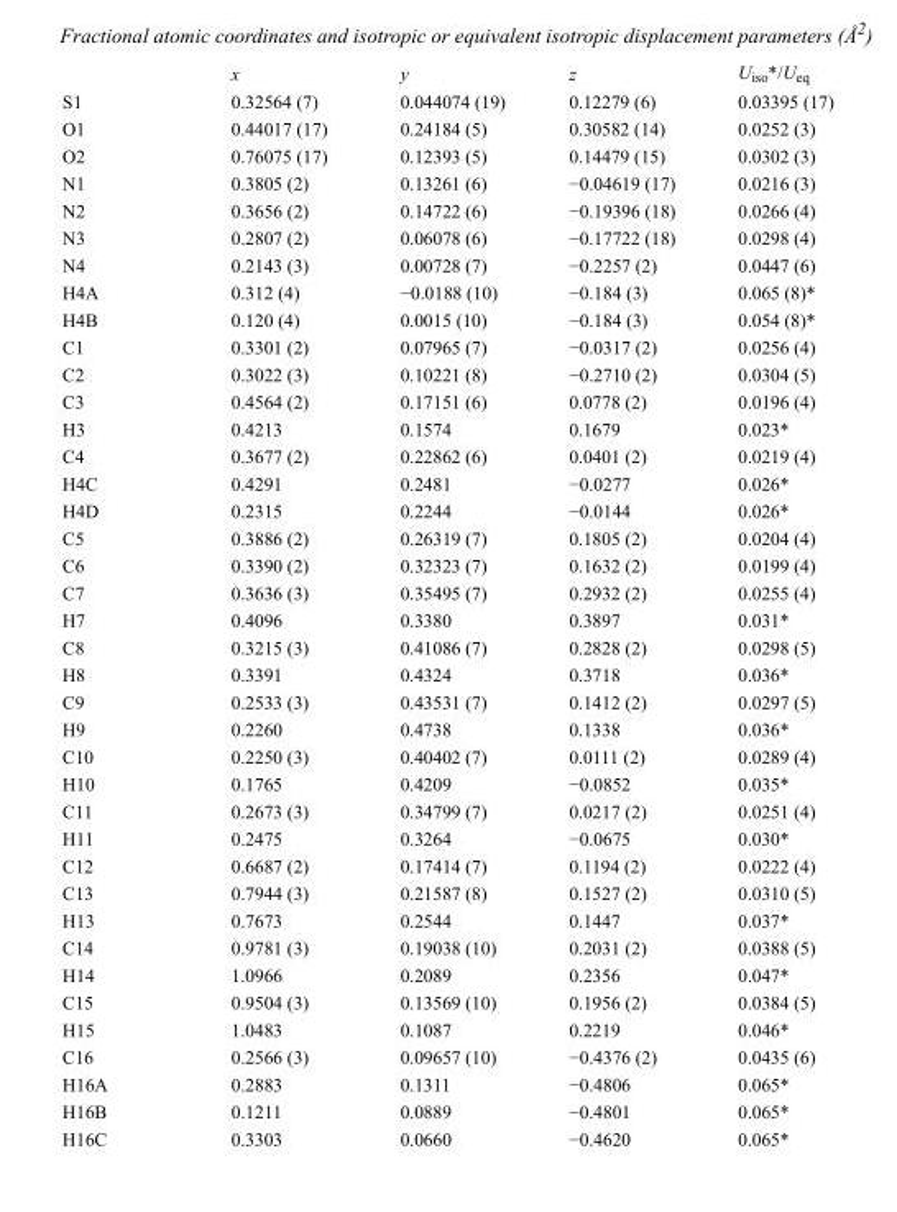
<table><thead><tr><td></td><td>x</td><td>y</td><td>z</td><td>U<sub>iso</sub>*/U<sub>eq</sub></td></tr></thead><tbody><tr><td>S1</td><td>0.32564 (7)</td><td>0.044074 (19)</td><td>0.12279 (6)</td><td>0.03395 (17)</td></tr><tr><td>O1</td><td>0.44017 (17)</td><td>0.24184 (5)</td><td>0.30582 (14)</td><td>0.0252 (3)</td></tr><tr><td>O2</td><td>0.76075 (17)</td><td>0.12393 (5)</td><td>0.14479 (15)</td><td>0.0302 (3)</td></tr><tr><td>N1</td><td>0.3805 (2)</td><td>0.13261 (6)</td><td>−0.04619 (17)</td><td>0.0216 (3)</td></tr><tr><td>N2</td><td>0.3656 (2)</td><td>0.14722 (6)</td><td>−0.19396 (18)</td><td>0.0266 (4)</td></tr><tr><td>N3</td><td>0.2807 (2)</td><td>0.06078 (6)</td><td>−0.17722 (18)</td><td>0.0298 (4)</td></tr><tr><td>N4</td><td>0.2143 (3)</td><td>0.00728 (7)</td><td>−0.2257 (2)</td><td>0.0447 (6)</td></tr><tr><td>H4A</td><td>0.312 (4)</td><td>−0.0188 (10)</td><td>−0.184 (3)</td><td>0.065 (8)*</td></tr><tr><td>H4B</td><td>0.120 (4)</td><td>0.0015 (10)</td><td>−0.184 (3)</td><td>0.054 (8)*</td></tr><tr><td>C1</td><td>0.3301 (2)</td><td>0.07965 (7)</td><td>−0.0317 (2)</td><td>0.0256 (4)</td></tr><tr><td>C2</td><td>0.3022 (3)</td><td>0.10221 (8)</td><td>−0.2710 (2)</td><td>0.0304 (5)</td></tr><tr><td>C3</td><td>0.4564 (2)</td><td>0.17151 (6)</td><td>0.0778 (2)</td><td>0.0196 (4)</td></tr><tr><td>H3</td><td>0.4213</td><td>0.1574</td><td>0.1679</td><td>0.023*</td></tr><tr><td>C4</td><td>0.3677 (2)</td><td>0.22862 (6)</td><td>0.0401 (2)</td><td>0.0219 (4)</td></tr><tr><td>H4C</td><td>0.4291</td><td>0.2481</td><td>−0.0277</td><td>0.026*</td></tr><tr><td>H4D</td><td>0.2315</td><td>0.2244</td><td>−0.0144</td><td>0.026*</td></tr><tr><td>C5</td><td>0.3886 (2)</td><td>0.26319 (7)</td><td>0.1805 (2)</td><td>0.0204 (4)</td></tr><tr><td>C6</td><td>0.3390 (2)</td><td>0.32323 (7)</td><td>0.1632 (2)</td><td>0.0199 (4)</td></tr><tr><td>C7</td><td>0.3636 (3)</td><td>0.35495 (7)</td><td>0.2932 (2)</td><td>0.0255 (4)</td></tr><tr><td>H7</td><td>0.4096</td><td>0.3380</td><td>0.3897</td><td>0.031*</td></tr><tr><td>C8</td><td>0.3215 (3)</td><td>0.41086 (7)</td><td>0.2828 (2)</td><td>0.0298 (5)</td></tr><tr><td>H8</td><td>0.3391</td><td>0.4324</td><td>0.3718</td><td>0.036*</td></tr><tr><td>C9</td><td>0.2533 (3)</td><td>0.43531 (7)</td><td>0.1412 (2)</td><td>0.0297 (5)</td></tr><tr><td>H9</td><td>0.2260</td><td>0.4738</td><td>0.1338</td><td>0.036*</td></tr><tr><td>C10</td><td>0.2250 (3)</td><td>0.40402 (7)</td><td>0.0111 (2)</td><td>0.0289 (4)</td></tr><tr><td>H10</td><td>0.1765</td><td>0.4209</td><td>−0.0852</td><td>0.035*</td></tr><tr><td>C11</td><td>0.2673 (3)</td><td>0.34799 (7)</td><td>0.0217 (2)</td><td>0.0251 (4)</td></tr><tr><td>H11</td><td>0.2475</td><td>0.3264</td><td>−0.0675</td><td>0.030*</td></tr><tr><td>C12</td><td>0.6687 (2)</td><td>0.17414 (7)</td><td>0.1194 (2)</td><td>0.0222 (4)</td></tr><tr><td>C13</td><td>0.7944 (3)</td><td>0.21587 (8)</td><td>0.1527 (2)</td><td>0.0310 (5)</td></tr><tr><td>H13</td><td>0.7673</td><td>0.2544</td><td>0.1447</td><td>0.037*</td></tr><tr><td>C14</td><td>0.9781 (3)</td><td>0.19038 (10)</td><td>0.2031 (2)</td><td>0.0388 (5)</td></tr><tr><td>H14</td><td>1.0966</td><td>0.2089</td><td>0.2356</td><td>0.047*</td></tr><tr><td>C15</td><td>0.9504 (3)</td><td>0.13569 (10)</td><td>0.1956 (2)</td><td>0.0384 (5)</td></tr><tr><td>H15</td><td>1.0483</td><td>0.1087</td><td>0.2219</td><td>0.046*</td></tr><tr><td>C16</td><td>0.2566 (3)</td><td>0.09657 (10)</td><td>−0.4376 (2)</td><td>0.0435 (6)</td></tr><tr><td>H16A</td><td>0.2883</td><td>0.1311</td><td>−0.4806</td><td>0.065*</td></tr><tr><td>H16B</td><td>0.1211</td><td>0.0889</td><td>−0.4801</td><td>0.065*</td></tr><tr><td>H16C</td><td>0.3303</td><td>0.0660</td><td>−0.4620</td><td>0.065*</td></tr></tbody></table>